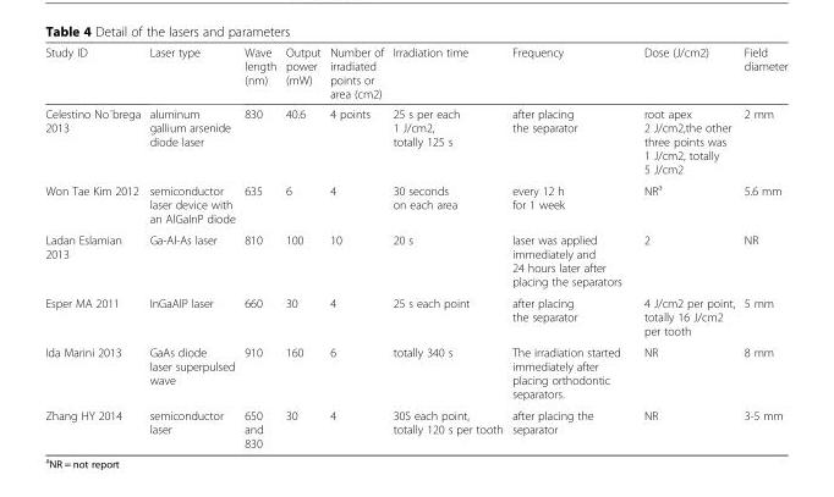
<table><thead><tr><td>Study ID</td><td>Laser type</td><td>Wave length (nm)</td><td>Output power (mW)</td><td>Number of irradiated points or area (cm2)</td><td>Irradiation time</td><td>Frequency</td><td>Dose (J/cm2)</td><td>Field diameter</td></tr></thead><tbody><tr><td>Celestino No´brega 2013</td><td>aluminum gallium arsenide diode laser</td><td>830</td><td>40.6</td><td>4 points</td><td>25 s per each 1 J/cm2, totally 125 s</td><td>after placing the separator</td><td>root apex 2 J/cm2,the other three points was 1 J/cm2, totally 5 J/cm2</td><td>2 mm</td></tr><tr><td>Won Tae Kim 2012</td><td>semiconductor laser device with an AlGaInP diode</td><td>635</td><td>6</td><td>4</td><td>30 seconds on each area</td><td>every 12 h for 1 week</td><td>NR<sup>a</sup></td><td>5.6 mm</td></tr><tr><td>Ladan Eslamian 2013</td><td>Ga-Al-As laser</td><td>810</td><td>100</td><td>10</td><td>20 s</td><td>laser was applied immediately and 24 hours later after placing the separators</td><td>2</td><td>NR</td></tr><tr><td>Esper MA 2011</td><td>InGaAlP laser</td><td>660</td><td>30</td><td>4</td><td>25 s each point</td><td>after placing the separator</td><td>4 J/cm2 per point, totally 16 J/cm2 per tooth</td><td>5 mm</td></tr><tr><td>Ida Marini 2013</td><td>GaAs diode laser superpulsed wave</td><td>910</td><td>160</td><td>6</td><td>totally 340 s</td><td>The irradiation started immediately after placing orthodontic separators.</td><td>NR</td><td>8 mm</td></tr><tr><td>Zhang HY 2014</td><td>semiconductor laser</td><td>650 and 830</td><td>30</td><td>4</td><td>30S each point, totally 120 s per tooth</td><td>after placing the separator</td><td>NR</td><td>3-5 mm</td></tr></tbody></table>